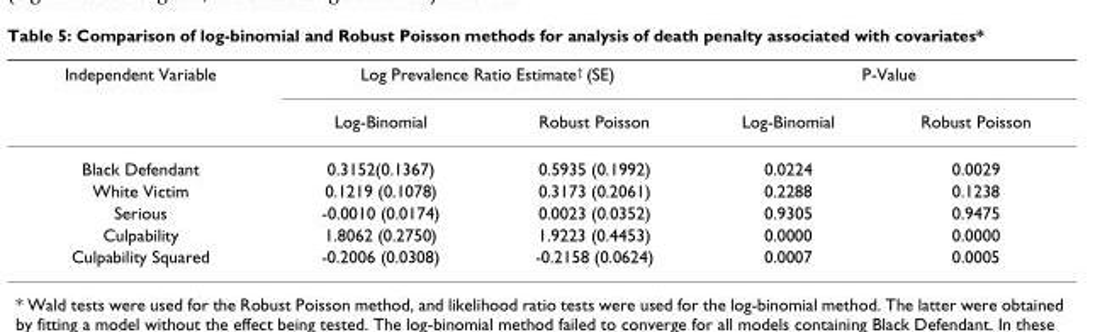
<table><thead><tr><td rowspan="2">Independent Variable</td><td colspan="2">Log Prevalence Ratio Estimate<sup>†</sup> (SE)</td><td colspan="2">P-Value</td></tr><tr><td>Log-Binomial</td><td>Robust Poisson</td><td>Log-Binomial</td><td>Robust Poisson</td></tr></thead><tbody><tr><td>Black Defendant</td><td>0.3152(0.1367)</td><td>0.5935 (0.1992)</td><td>0.0224</td><td>0.0029</td></tr><tr><td>White Victim</td><td>0.1219 (0.1078)</td><td>0.3173 (0.2061)</td><td>0.2288</td><td>0.1238</td></tr><tr><td>Serious</td><td>-0.0010 (0.0174)</td><td>0.0023 (0.0352)</td><td>0.9305</td><td>0.9475</td></tr><tr><td>Culpability</td><td>1.8062 (0.2750)</td><td>1.9223 (0.4453)</td><td>0.0000</td><td>0.0000</td></tr><tr><td>Culpability Squared</td><td>-0.2006 (0.0308)</td><td>-0.2158 (0.0624)</td><td>0.0007</td><td>0.0005</td></tr></tbody></table>